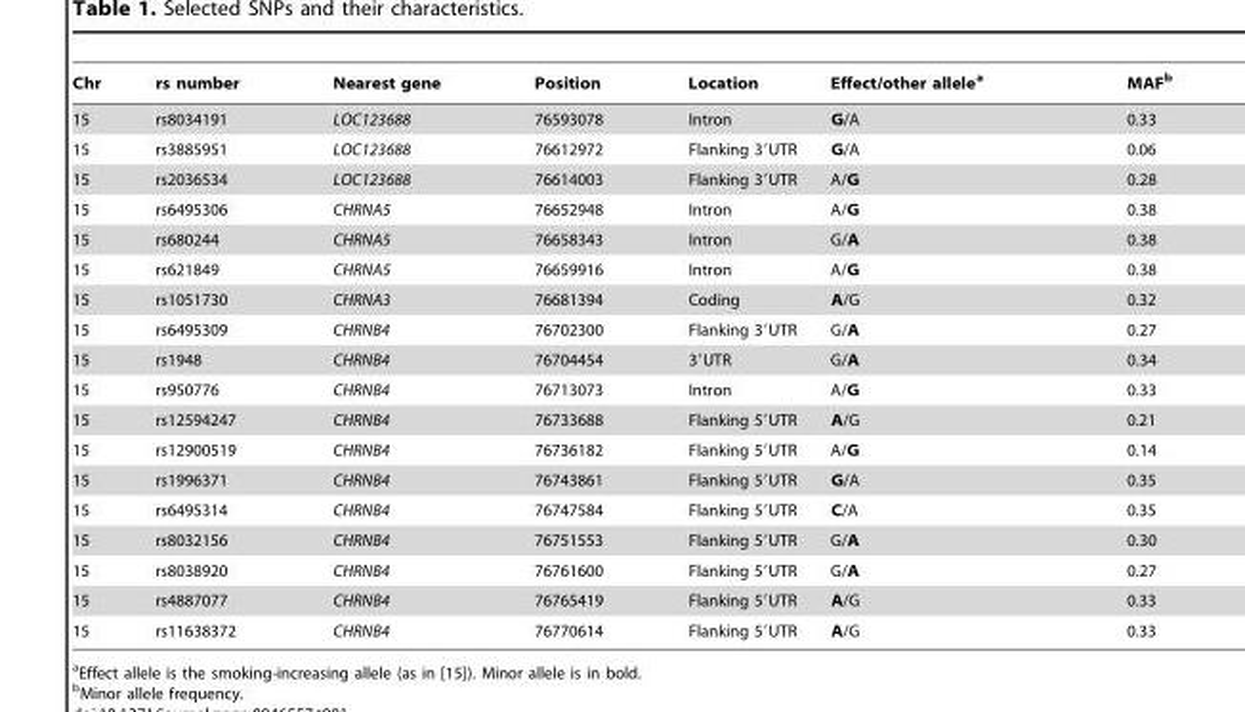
<table><thead><tr><td>Chr</td><td>rs number</td><td>Nearest gene</td><td>Position</td><td>Location</td><td>Effect/other allele<sup>a</sup></td><td>MAF<sup>b</sup></td></tr></thead><tbody><tr><td>15</td><td>rs8034191</td><td>LOC123688</td><td>76593078</td><td>Intron</td><td>G/A</td><td>0.33</td></tr><tr><td>15</td><td>rs3885951</td><td>LOC123688</td><td>76612972</td><td>Flanking 3′UTR</td><td>G/A</td><td>0.06</td></tr><tr><td>15</td><td>rs2036534</td><td>LOC123688</td><td>76614003</td><td>Flanking 3′UTR</td><td>A/G</td><td>0.28</td></tr><tr><td>15</td><td>rs6495306</td><td>CHRNA5</td><td>76652948</td><td>Intron</td><td>A/G</td><td>0.38</td></tr><tr><td>15</td><td>rs680244</td><td>CHRNA5</td><td>76658343</td><td>Intron</td><td>G/A</td><td>0.38</td></tr><tr><td>15</td><td>rs621849</td><td>CHRNA5</td><td>76659916</td><td>Intron</td><td>A/G</td><td>0.38</td></tr><tr><td>15</td><td>rs1051730</td><td>CHRNA3</td><td>76681394</td><td>Coding</td><td>A/G</td><td>0.32</td></tr><tr><td>15</td><td>rs6495309</td><td>CHRNB4</td><td>76702300</td><td>Flanking 3′UTR</td><td>G/A</td><td>0.27</td></tr><tr><td>15</td><td>rs1948</td><td>CHRNB4</td><td>76704454</td><td>3′UTR</td><td>G/A</td><td>0.34</td></tr><tr><td>15</td><td>rs950776</td><td>CHRNB4</td><td>76713073</td><td>Intron</td><td>A/G</td><td>0.33</td></tr><tr><td>15</td><td>rs12594247</td><td>CHRNB4</td><td>76733688</td><td>Flanking 5′UTR</td><td>A/G</td><td>0.21</td></tr><tr><td>15</td><td>rs12900519</td><td>CHRNB4</td><td>76736182</td><td>Flanking 5′UTR</td><td>A/G</td><td>0.14</td></tr><tr><td>15</td><td>rs1996371</td><td>CHRNB4</td><td>76743861</td><td>Flanking 5′UTR</td><td>G/A</td><td>0.35</td></tr><tr><td>15</td><td>rs6495314</td><td>CHRNB4</td><td>76747584</td><td>Flanking 5′UTR</td><td>C/A</td><td>0.35</td></tr><tr><td>15</td><td>rs8032156</td><td>CHRNB4</td><td>76751553</td><td>Flanking 5′UTR</td><td>G/A</td><td>0.30</td></tr><tr><td>15</td><td>rs8038920</td><td>CHRNB4</td><td>76761600</td><td>Flanking 5′UTR</td><td>G/A</td><td>0.27</td></tr><tr><td>15</td><td>rs4887077</td><td>CHRNB4</td><td>76765419</td><td>Flanking 5′UTR</td><td>A/G</td><td>0.33</td></tr><tr><td>15</td><td>rs11638372</td><td>CHRNB4</td><td>76770614</td><td>Flanking 5′UTR</td><td>A/G</td><td>0.33</td></tr></tbody></table>